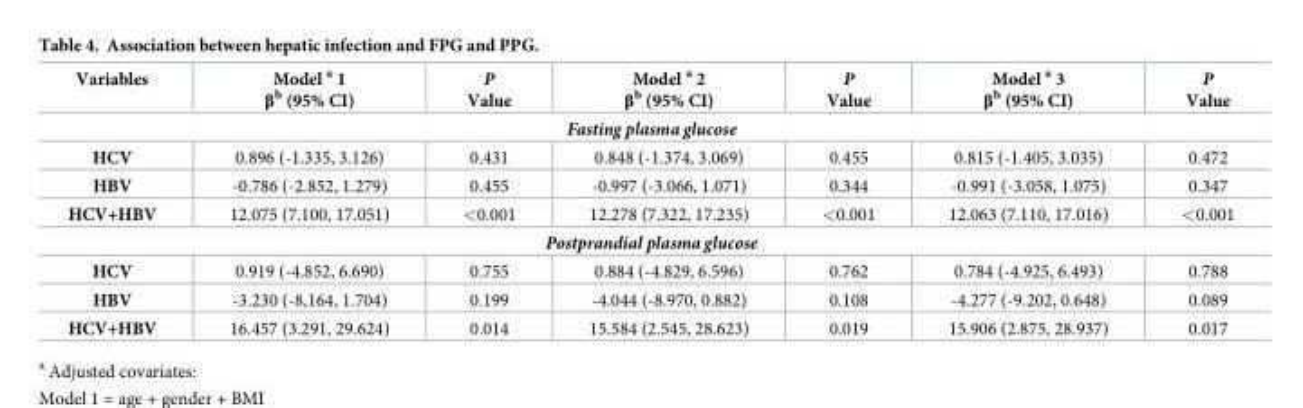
<table><thead><tr><td>Variables</td><td>Model <sup>a</sup> 1 β<sup>b</sup> (95% CI)</td><td>P Value</td><td>Model <sup>a</sup> 2 β<sup>b</sup> (95% CI)</td><td>P Value</td><td>Model <sup>a</sup> 3 β<sup>b</sup> (95% CI)</td><td>P Value</td></tr></thead><tbody><tr><td colspan="7">Fasting plasma glucose</td></tr><tr><td>HCV</td><td>0.896 (-1.335, 3.126)</td><td>0.431</td><td>0.848 (-1.374, 3.069)</td><td>0.455</td><td>0.815 (-1.405, 3.035)</td><td>0.472</td></tr><tr><td>HBV</td><td>-0.786 (-2.852, 1.279)</td><td>0.455</td><td>-0.997 (-3.066, 1.071)</td><td>0.344</td><td>-0.991 (-3.058, 1.075)</td><td>0.347</td></tr><tr><td>HCV+HBV</td><td>12.075 (7.100, 17.051)</td><td>&lt;0.001</td><td>12.278 (7.322, 17.235)</td><td>&lt;0.001</td><td>12.063 (7.110, 17.016)</td><td>&lt;0.001</td></tr><tr><td colspan="7">Postprandial plasma glucose</td></tr><tr><td>HCV</td><td>0.919 (-4.852, 6.690)</td><td>0.755</td><td>0.884 (-4.829, 6.596)</td><td>0.762</td><td>0.784 (-4.925, 6.493)</td><td>0.788</td></tr><tr><td>HBV</td><td>-3.230 (-8,164, 1.704)</td><td>0.199</td><td>-4.044 (-8.970, 0.882)</td><td>0.108</td><td>-4.277 (-9.202, 0.648)</td><td>0.089</td></tr><tr><td>HCV+HBV</td><td>16.457 (3.291, 29.624)</td><td>0.014</td><td>15.584 (2.545, 28.623)</td><td>0.019</td><td>15.906 (2.875, 28.937)</td><td>0.017</td></tr></tbody></table>